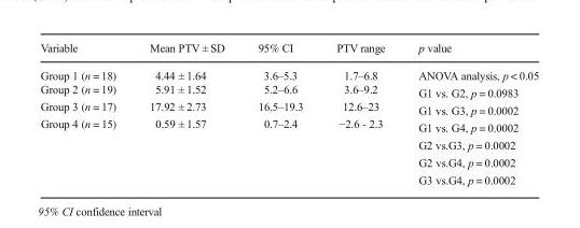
<table><thead><tr><td>Variable</td><td>Mean PTV ± SD</td><td>95% CI</td><td>PTV range</td><td>p value</td></tr></thead><tbody><tr><td>Group 1 (n = 18)</td><td>4.44 ± 1.64</td><td>3.6–5.3</td><td>1.7–6.8</td><td rowspan="4">ANOVA analysis, p &lt; 0.05 G1 vs. G2, p = 0.0983 G1 vs. G3, p = 0.0002 G1 vs. G4, p = 0.0002 G2 vs.G3, p = 0.0002 G2 vs.G4, p = 0.0002 G3 vs.G4, p = 0.0002</td></tr><tr><td>Group 2 (n = 19)</td><td>5.91 ± 1.52</td><td>5.2–6.6</td><td>3.6–9.2</td></tr><tr><td>Group 3 (n = 17)</td><td>17.92 ± 2.73</td><td>16.5–19.3</td><td>12.6–23</td></tr><tr><td>Group 4 (n = 15)</td><td>0.59 ± 1.57</td><td>0.7–2.4</td><td>−2.6 - 2.3</td></tr></tbody></table>